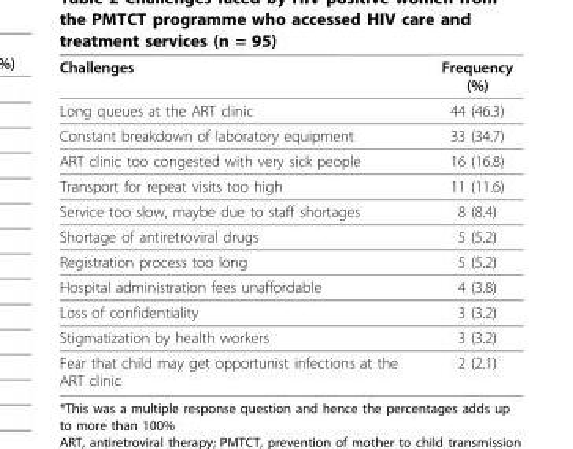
<table><thead><tr><td>Challenges</td><td>Frequency (%)</td></tr></thead><tbody><tr><td>Long queues at the ART clinic</td><td>44 (46.3)</td></tr><tr><td>Constant breakdown of laboratory equipment</td><td>33 (34.7)</td></tr><tr><td>ART clinic too congested with very sick people</td><td>16 (16.8)</td></tr><tr><td>Transport for repeat visits too high</td><td>11 (11.6)</td></tr><tr><td>Service too slow, maybe due to staff shortages</td><td>8 (8.4)</td></tr><tr><td>Shortage of antiretroviral drugs</td><td>5 (5.2)</td></tr><tr><td>Registration process too long</td><td>5 (5.2)</td></tr><tr><td>Hospital administration fees unaffordable</td><td>4 (3.8)</td></tr><tr><td>Loss of confidentiality</td><td>3 (3.2)</td></tr><tr><td>Stigmatization by health workers</td><td>3 (3.2)</td></tr><tr><td>Fear that child may get opportunist infections at the ART clinic</td><td>2 (2.1)</td></tr></tbody></table>